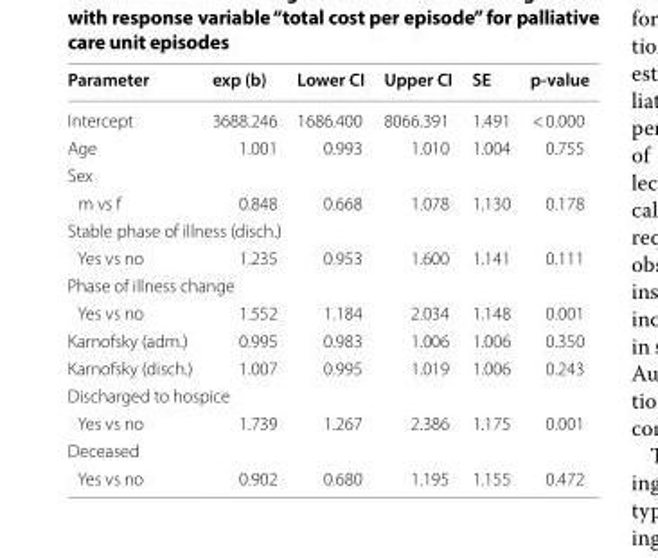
<table><thead><tr><td>Parameter</td><td>exp (b)</td><td>Lower CI</td><td>Upper CI</td><td>SE</td><td>p-value</td></tr></thead><tbody><tr><td>Intercept</td><td>3688.246</td><td>1686.400</td><td>8066.391</td><td>1.491</td><td>&lt; 0.000</td></tr><tr><td>Age</td><td>1.001</td><td>0.993</td><td>1.010</td><td>1.004</td><td>0.755</td></tr><tr><td colspan="6">Sex</td></tr><tr><td>m vs f</td><td>0.848</td><td>0.668</td><td>1.078</td><td>1.130</td><td>0.178</td></tr><tr><td colspan="6">Stable phase of illness (disch.)</td></tr><tr><td>Yes vs no</td><td>1.235</td><td>0.953</td><td>1.600</td><td>1.141</td><td>0.111</td></tr><tr><td colspan="6">Phase of illness change</td></tr><tr><td>Yes vs no</td><td>1.552</td><td>1.184</td><td>2.034</td><td>1.148</td><td>0.001</td></tr><tr><td>Karnofsky (adm.)</td><td>0.995</td><td>0.983</td><td>1.006</td><td>1.006</td><td>0.350</td></tr><tr><td>Karnofsky (disch.)</td><td>1.007</td><td>0.995</td><td>1.019</td><td>1.006</td><td>0.243</td></tr><tr><td colspan="6">Discharged to hospice</td></tr><tr><td>Yes vs no</td><td>1.739</td><td>1.267</td><td>2.386</td><td>1.175</td><td>0.001</td></tr><tr><td colspan="6">Deceased</td></tr><tr><td>Yes vs no</td><td>0.902</td><td>0.680</td><td>1.195</td><td>1.155</td><td>0.472</td></tr></tbody></table>